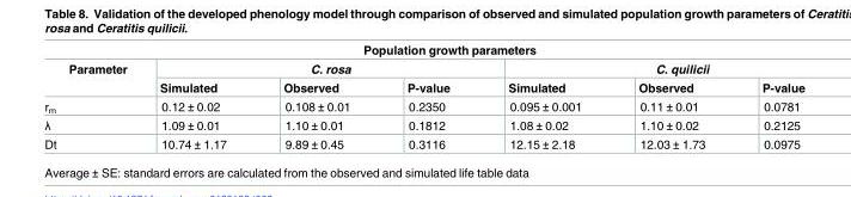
<table><thead><tr><td colspan="7">Population growth parameters</td></tr><tr><td rowspan="2">Parameter</td><td colspan="3">C. rosa</td><td colspan="3">C. quilicii</td></tr><tr><td>Simulated</td><td>Observed</td><td>P-value</td><td>Simulated</td><td>Observed</td><td>P-value</td></tr></thead><tbody><tr><td>r<sub>m</sub></td><td>0.12 ± 0.02</td><td>0.108 ± 0.01</td><td>0.2350</td><td>0.095 ± 0.001</td><td>0.11 ± 0.01</td><td>0.0781</td></tr><tr><td>λ</td><td>1.09 ± 0.01</td><td>1.10 ± 0.01</td><td>0.1812</td><td>1.08 ± 0.02</td><td>1.10 ± 0.02</td><td>0.2125</td></tr><tr><td>Dt</td><td>10.74 ± 1.17</td><td>9.89 ± 0.45</td><td>0.3116</td><td>12.15 ± 2.18</td><td>12.03 ± 1.73</td><td>0.0975</td></tr></tbody></table>